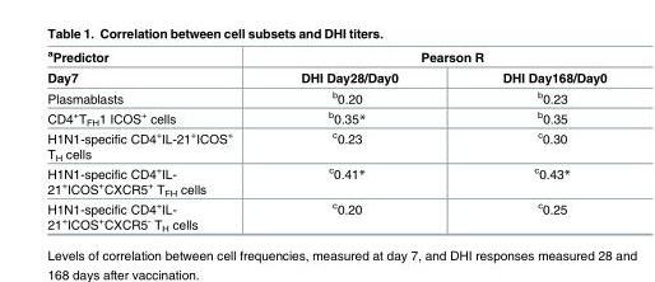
<table><thead><tr><td rowspan="2"><sup>a</sup>Predictor Day7</td><td colspan="2">Pearson R</td></tr><tr><td>DHI Day28/Day0</td><td>DHI Day168/Day0</td></tr></thead><tbody><tr><td>Plasmablasts</td><td><sup>b</sup>0.20</td><td><sup>b</sup>0.23</td></tr><tr><td>CD4<sup>+</sup>T<sub>FH</sub>1 ICOS<sup>+</sup> cells</td><td><sup>b</sup>0.35*</td><td><sup>b</sup>0.35</td></tr><tr><td>H1N1-specific CD4<sup>+</sup>IL-21<sup>+</sup>ICOS<sup>+</sup> T<sub>H</sub> cells</td><td><sup>c</sup>0.23</td><td><sup>c</sup>0.30</td></tr><tr><td>H1N1-specific CD4<sup>+</sup>IL- 21<sup>+</sup>ICOS<sup>+</sup>CXCR5<sup>+</sup> T<sub>FH</sub> cells</td><td><sup>c</sup>0.41*</td><td><sup>c</sup>0.43*</td></tr><tr><td>H1N1-specific CD4<sup>+</sup>IL- 21<sup>+</sup>ICOS<sup>+</sup>CXCR5<sup>-</sup> T<sub>H</sub> cells</td><td><sup>c</sup>0.20</td><td><sup>c</sup>0.25</td></tr></tbody></table>